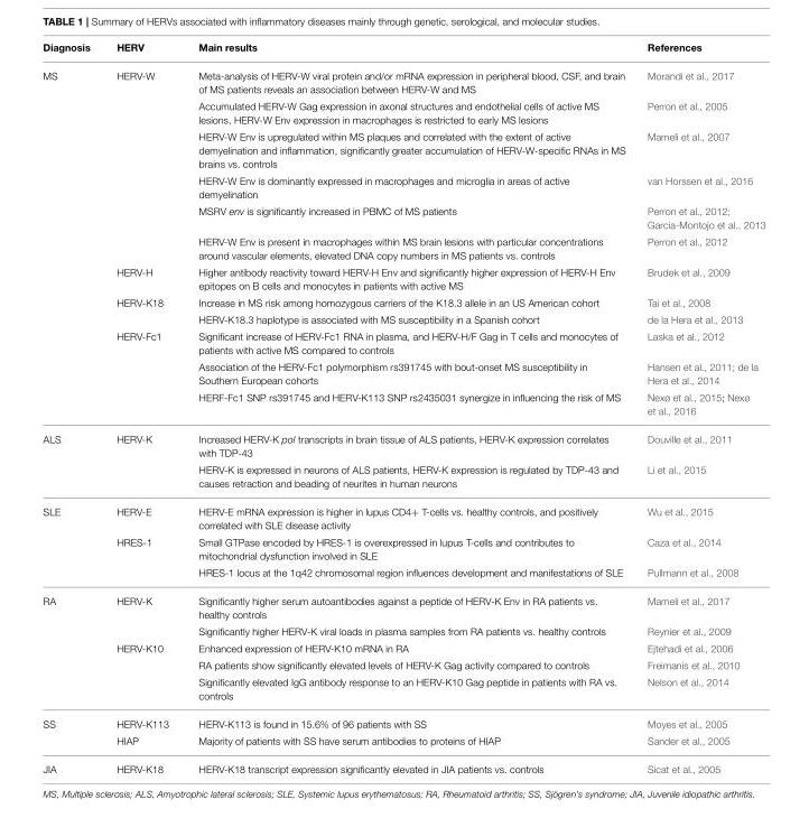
<table><thead><tr><td>Diagnosis</td><td>HERV</td><td>Main results</td><td>References</td></tr></thead><tbody><tr><td rowspan="12">MS</td><td>HERV-W</td><td>Meta-analysis of HERV-W viral protein and/or mRNA expression in peripheral blood, CSF, and brain of MS patients reveals an association between HERV-W and MS</td><td>Morandi et al., 2017</td></tr><tr><td></td><td>Accumulated HERV-W Gag expression in axonal structures and endothelial cells of active MS lesions, HERV-W Env expression in macrophages is restricted to early MS lesions</td><td>Perron et al., 2005</td></tr><tr><td></td><td>HERV-W Env is upregulated within MS plaques and correlated with the extent of active demyelination and inflammation, significantly greater accumulation of HERV-W-specific RNAs in MS brains vs. controls</td><td>Mameli et al., 2007</td></tr><tr><td></td><td>HERV-W Env is dominantly expressed in macrophages and microglia in areas of active demyelination</td><td>van Horssen et al., 2016</td></tr><tr><td></td><td>MSRV env is significantly increased in PBMC of MS patients</td><td>Perron et al., 2012; Garcia-Montojo et al., 2013</td></tr><tr><td></td><td>HERV-W Env is present in macrophages within MS brain lesions with particular concentrations around vascular elements, elevated DNA copy numbers in MS patients vs. controls</td><td>Perron et al., 2012</td></tr><tr><td>HERV-H</td><td>Higher antibody reactivity toward HERV-H Env and significantly higher expression of HERV-H Env epitopes on B cells and monocytes in patients with active MS</td><td>Brudek et al., 2009</td></tr><tr><td>HERV-K18</td><td>Increase in MS risk among homozygous carriers of the K18.3 allele in an US American cohort</td><td>Tai et al., 2008</td></tr><tr><td></td><td>HERV-K18.3 haplotype is associated with MS susceptibility in a Spanish cohort</td><td>de la Hera et al., 2013</td></tr><tr><td>HERV-Fc1</td><td>Significant increase of HERV-Fc1 RNA in plasma, and HERV-H/F Gag in T cells and monocytes of patients with active MS compared to controls</td><td>Laska et al., 2012</td></tr><tr><td></td><td>Association of the HERV-Fc1 polymorphism rs391745 with bout-onset MS susceptibility in Southern European cohorts</td><td>Hansen et al., 2011; de la Hera et al., 2014</td></tr><tr><td></td><td>HERF-Fc1 SNP rs391745 and HERV-K113 SNP rs2435031 synergize in influencing the risk of MS</td><td>Nexø et al., 2015; Nexø et al., 2016</td></tr><tr><td rowspan="2">ALS</td><td>HERV-K</td><td>Increased HERV-K pol transcripts in brain tissue of ALS patients, HERV-K expression correlates with TDP-43</td><td>Douville et al., 2011</td></tr><tr><td></td><td>HERV-K is expressed in neurons of ALS patients, HERV-K expression is regulated by TDP-43 and causes retraction and beading of neurites in human neurons</td><td>Li et al., 2015</td></tr><tr><td rowspan="3">SLE</td><td>HERV-E</td><td>HERV-E mRNA expression is higher in lupus CD4+ T-cells vs. healthy controls, and positively correlated with SLE disease activity</td><td>Wu et al., 2015</td></tr><tr><td>HRES-1</td><td>Small GTPase encoded by HRES-1 is overexpressed in lupus T-cells and contributes to mitochondrial dysfunction involved in SLE</td><td>Caza et al., 2014</td></tr><tr><td></td><td>HRES-1 locus at the 1q42 chromosomal region influences development and manifestations of SLE</td><td>Pullmann et al., 2008</td></tr><tr><td rowspan="5">RA</td><td>HERV-K</td><td>Significantly higher serum autoantibodies against a peptide of HERV-K Env in RA patients vs. healthy controls</td><td>Mameli et al., 2017</td></tr><tr><td></td><td>Significantly higher HERV-K viral loads in plasma samples from RA patients vs. healthy controls</td><td>Reynier et al., 2009</td></tr><tr><td>HERV-K10</td><td>Enhanced expression of HERV-K10 mRNA in RA</td><td>Ejtehadi et al., 2006</td></tr><tr><td></td><td>RA patients show significantly elevated levels of HERV-K Gag activity compared to controls</td><td>Freimanis et al., 2010</td></tr><tr><td></td><td>Significantly elevated IgG antibody response to an HERV-K10 Gag peptide in patients with RA vs. controls</td><td>Nelson et al., 2014</td></tr><tr><td rowspan="2">SS</td><td>HERV-K113</td><td>HERV-K113 is found in 15.6% of 96 patients with SS</td><td>Moyes et al., 2005</td></tr><tr><td>HIAP</td><td>Majority of patients with SS have serum antibodies to proteins of HIAP</td><td>Sander et al., 2005</td></tr><tr><td>JIA</td><td>HERV-K18</td><td>HERV-K18 transcript expression significantly elevated in JIA patients vs. controls</td><td>Sicat et al., 2005</td></tr></tbody></table>